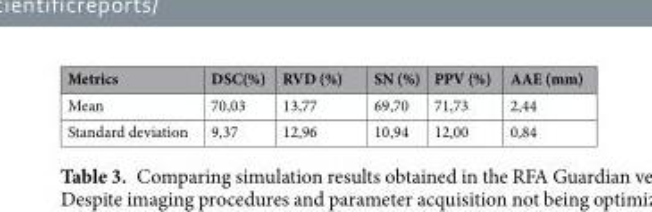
<table><thead><tr><td>Metrics</td><td>DSC(%)</td><td>RVD (%)</td><td>SN (%)</td><td>PPV (%)</td><td>AAE (mm)</td></tr></thead><tbody><tr><td>Mean</td><td>70,03</td><td>13,77</td><td>69,70</td><td>71,73</td><td>2,44</td></tr><tr><td>Standard deviation</td><td>9,37</td><td>12,96</td><td>10,94</td><td>12,00</td><td>0,84</td></tr></tbody></table>